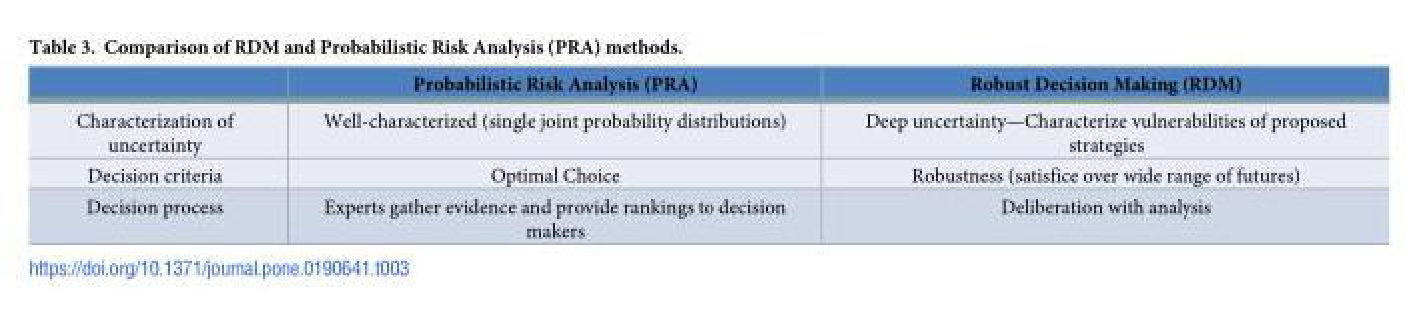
<table><thead><tr><td></td><td>Probabilistic Risk Analysis (PRA)</td><td>Robust Decision Making (RDM)</td></tr></thead><tbody><tr><td>Characterization of uncertainty</td><td>Well-characterized (single joint probability distributions)</td><td>Deep uncertainty—Characterize vulnerabilities of proposed strategies</td></tr><tr><td>Decision criteria</td><td>Optimal Choice</td><td>Robustness (satisfice over wide range of futures)</td></tr><tr><td>Decision process</td><td>Experts gather evidence and provide rankings to decision makers</td><td>Deliberation with analysis</td></tr></tbody></table>